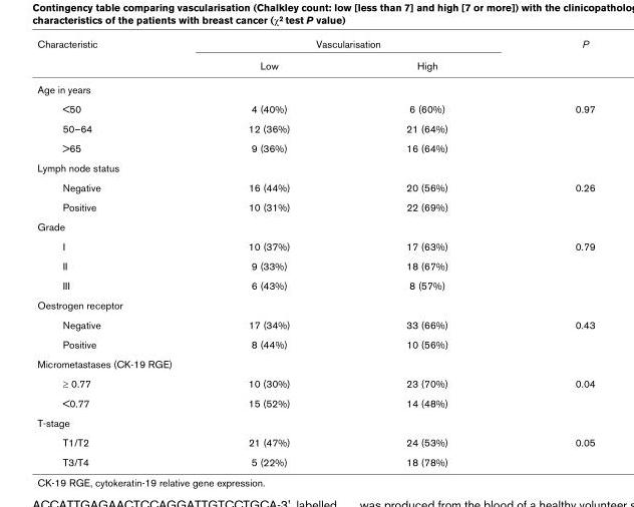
<table><thead><tr><td rowspan="2">Characteristic</td><td colspan="2">Vascularisation</td><td rowspan="2">P</td></tr><tr><td>Low</td><td>High</td></tr></thead><tbody><tr><td colspan="4">Age in years</td></tr><tr><td>&lt;50</td><td>4 (40%)</td><td>6 (60%)</td><td>0.97</td></tr><tr><td>50–64</td><td>12 (36%)</td><td>21 (64%)</td><td></td></tr><tr><td>&gt;65</td><td>9 (36%)</td><td>16 (64%)</td><td></td></tr><tr><td colspan="4">Lymph node status</td></tr><tr><td>Negative</td><td>16 (44%)</td><td>20 (56%)</td><td>0.26</td></tr><tr><td>Positive</td><td>10 (31%)</td><td>22 (69%)</td><td></td></tr><tr><td colspan="4">Grade</td></tr><tr><td>I</td><td>10 (37%)</td><td>17 (63%)</td><td>0.79</td></tr><tr><td>II</td><td>9 (33%)</td><td>18 (67%)</td><td></td></tr><tr><td>III</td><td>6 (43%)</td><td>8 (57%)</td><td></td></tr><tr><td colspan="4">Oestrogen receptor</td></tr><tr><td>Negative</td><td>17 (34%)</td><td>33 (66%)</td><td>0.43</td></tr><tr><td>Positive</td><td>8 (44%)</td><td>10 (56%)</td><td></td></tr><tr><td colspan="4">Micrometastases (CK-19 RGE)</td></tr><tr><td>≥ 0.77</td><td>10 (30%)</td><td>23 (70%)</td><td>0.04</td></tr><tr><td>&lt;0.77</td><td>15 (52%)</td><td>14 (48%)</td><td></td></tr><tr><td colspan="4">T-stage</td></tr><tr><td>T1/T2</td><td>21 (47%)</td><td>24 (53%)</td><td>0.05</td></tr><tr><td>T3/T4</td><td>5 (22%)</td><td>18 (78%)</td><td></td></tr></tbody></table>